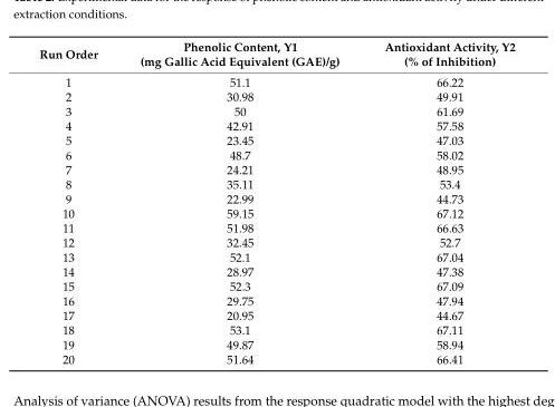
<table><thead><tr><td>Run Order</td><td>Phenolic Content, Y1 (mg Gallic Acid Equivalent (GAE)/g)</td><td>Antioxidant Activity, Y2 (% of Inhibition)</td></tr></thead><tbody><tr><td>1</td><td>51.1</td><td>66.22</td></tr><tr><td>2</td><td>30.98</td><td>49.91</td></tr><tr><td>3</td><td>50</td><td>61.69</td></tr><tr><td>4</td><td>42.91</td><td>57.58</td></tr><tr><td>5</td><td>23.45</td><td>47.03</td></tr><tr><td>6</td><td>48.7</td><td>58.02</td></tr><tr><td>7</td><td>24.21</td><td>48.95</td></tr><tr><td>8</td><td>35.11</td><td>53.4</td></tr><tr><td>9</td><td>22.99</td><td>44.73</td></tr><tr><td>10</td><td>59.15</td><td>67.12</td></tr><tr><td>11</td><td>51.98</td><td>66.63</td></tr><tr><td>12</td><td>32.45</td><td>52.7</td></tr><tr><td>13</td><td>52.1</td><td>67.04</td></tr><tr><td>14</td><td>28.97</td><td>47.38</td></tr><tr><td>15</td><td>52.3</td><td>67.09</td></tr><tr><td>16</td><td>29.75</td><td>47.94</td></tr><tr><td>17</td><td>20.95</td><td>44.67</td></tr><tr><td>18</td><td>53.1</td><td>67.11</td></tr><tr><td>19</td><td>49.87</td><td>58.94</td></tr><tr><td>20</td><td>51.64</td><td>66.41</td></tr></tbody></table>